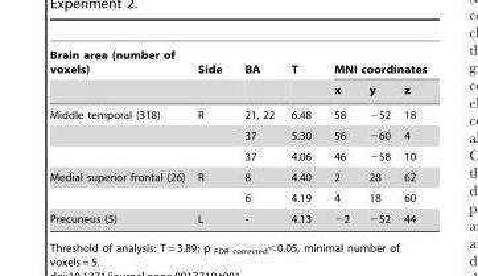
<table><thead><tr><td rowspan="2">Brain area (number of voxels)</td><td rowspan="2">Side</td><td rowspan="2">BA</td><td rowspan="2">T</td><td colspan="3">MNI coordinates</td></tr><tr><td>x</td><td>y</td><td>z</td></tr></thead><tbody><tr><td rowspan="3">Middle temporal (318)</td><td>R</td><td>21, 22</td><td>6.48</td><td>58</td><td>−52</td><td>18</td></tr><tr><td></td><td>37</td><td>5.30</td><td>56</td><td>−60</td><td>4</td></tr><tr><td></td><td>37</td><td>4.06</td><td>46</td><td>−58</td><td>10</td></tr><tr><td rowspan="2">Medial superior frontal (26)</td><td>R</td><td>8</td><td>4.40</td><td>2</td><td>28</td><td>62</td></tr><tr><td></td><td>6</td><td>4.19</td><td>4</td><td>18</td><td>60</td></tr><tr><td>Precuneus (5)</td><td>L</td><td>-</td><td>4.13</td><td>−2</td><td>−52</td><td>44</td></tr></tbody></table>